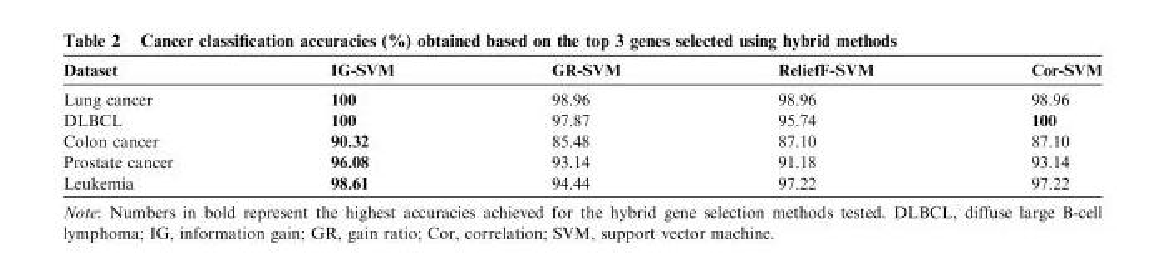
<table><thead><tr><td>Dataset</td><td>IG-SVM</td><td>GR-SVM</td><td>ReliefF-SVM</td><td>Cor-SVM</td></tr></thead><tbody><tr><td>Lung cancer</td><td>100</td><td>98.96</td><td>98.96</td><td>98.96</td></tr><tr><td>DLBCL</td><td>100</td><td>97.87</td><td>95.74</td><td>100</td></tr><tr><td>Colon cancer</td><td>90.32</td><td>85.48</td><td>87.10</td><td>87.10</td></tr><tr><td>Prostate cancer</td><td>96.08</td><td>93.14</td><td>91.18</td><td>93.14</td></tr><tr><td>Leukemia</td><td>98.61</td><td>94.44</td><td>97.22</td><td>97.22</td></tr></tbody></table>